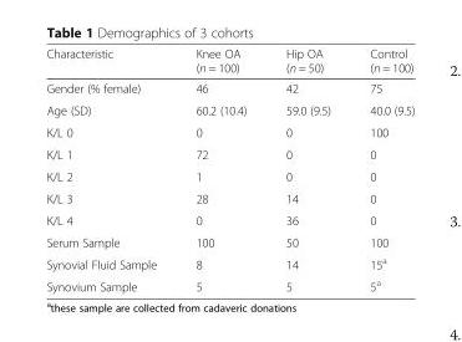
<table><thead><tr><td>Characteristic</td><td>Knee OA (n = 100)</td><td>Hip OA (n = 50)</td><td>Control (n = 100)</td></tr></thead><tbody><tr><td>Gender (% female)</td><td>46</td><td>42</td><td>75</td></tr><tr><td>Age (SD)</td><td>60.2 (10.4)</td><td>59.0 (9.5)</td><td>40.0 (9.5)</td></tr><tr><td>K/L 0</td><td>0</td><td>0</td><td>100</td></tr><tr><td>K/L 1</td><td>72</td><td>0</td><td>0</td></tr><tr><td>K/L 2</td><td>1</td><td>0</td><td>0</td></tr><tr><td>K/L 3</td><td>28</td><td>14</td><td>0</td></tr><tr><td>K/L 4</td><td>0</td><td>36</td><td>0</td></tr><tr><td>Serum Sample</td><td>100</td><td>50</td><td>100</td></tr><tr><td>Synovial Fluid Sample</td><td>8</td><td>14</td><td>15<sup>a</sup></td></tr><tr><td>Synovium Sample</td><td>5</td><td>5</td><td>5<sup>a</sup></td></tr></tbody></table>